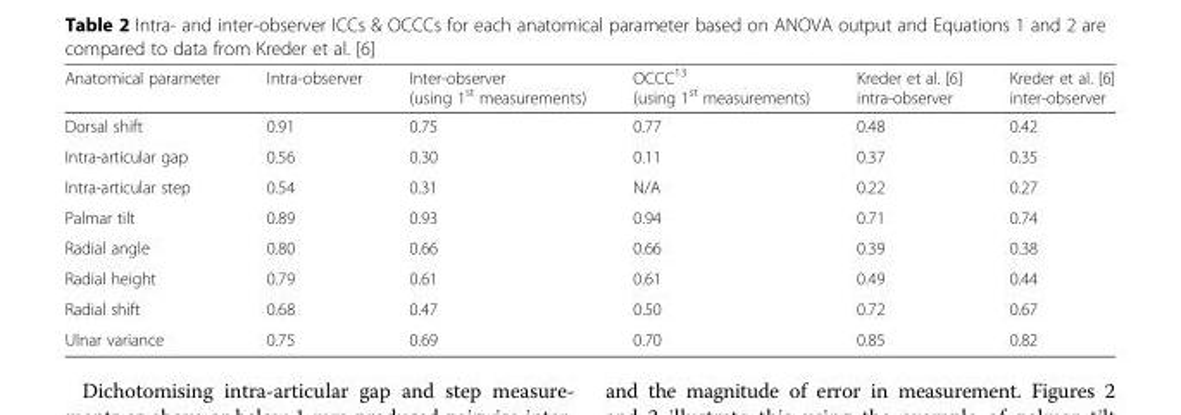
<table><thead><tr><td>Anatomical parameter</td><td>Intra-observer</td><td>Inter-observer (using 1<sup>st</sup> measurements)</td><td>OCCC<sup>13</sup> (using 1<sup>st</sup> measurements)</td><td>Kreder et al. [6] intra-observer</td><td>Kreder et al. [6] inter-observer</td></tr></thead><tbody><tr><td>Dorsal shift</td><td>0.91</td><td>0.75</td><td>0.77</td><td>0.48</td><td>0.42</td></tr><tr><td>Intra-articular gap</td><td>0.56</td><td>0.30</td><td>0.11</td><td>0.37</td><td>0.35</td></tr><tr><td>Intra-articular step</td><td>0.54</td><td>0.31</td><td>N/A</td><td>0.22</td><td>0.27</td></tr><tr><td>Palmar tilt</td><td>0.89</td><td>0.93</td><td>0.94</td><td>0.71</td><td>0.74</td></tr><tr><td>Radial angle</td><td>0.80</td><td>0.66</td><td>0.66</td><td>0.39</td><td>0.38</td></tr><tr><td>Radial height</td><td>0.79</td><td>0.61</td><td>0.61</td><td>0.49</td><td>0.44</td></tr><tr><td>Radial shift</td><td>0.68</td><td>0.47</td><td>0.50</td><td>0.72</td><td>0.67</td></tr><tr><td>Ulnar variance</td><td>0.75</td><td>0.69</td><td>0.70</td><td>0.85</td><td>0.82</td></tr></tbody></table>